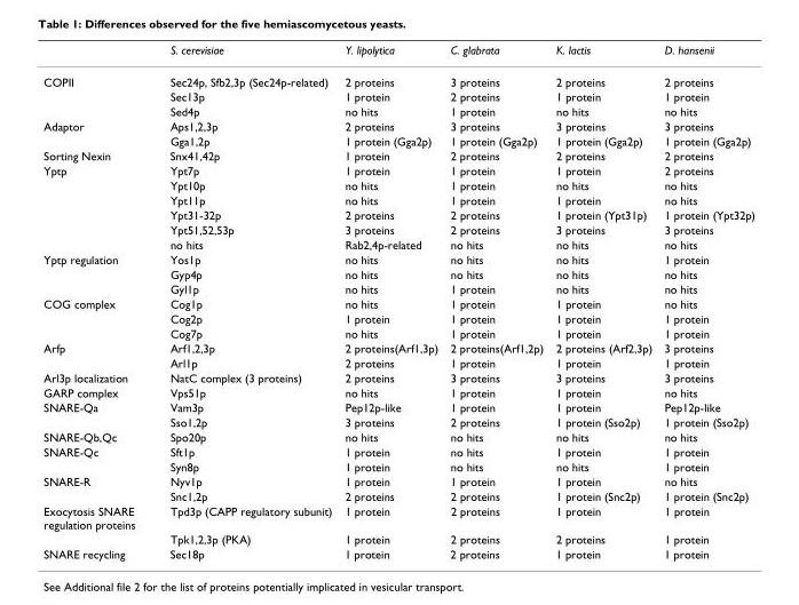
<table><thead><tr><td></td><td>S. cerevisiae</td><td>Y. lipolytica</td><td>C. glabrata</td><td>K. lactis</td><td>D. hansenii</td></tr></thead><tbody><tr><td rowspan="3">COPII</td><td>Sec24p, Sfb2,3p (Sec24p-related)</td><td>2 proteins</td><td>3 proteins</td><td>2 proteins</td><td>2 proteins</td></tr><tr><td>Sec13p</td><td>1 protein</td><td>2 proteins</td><td>1 protein</td><td>1 protein</td></tr><tr><td>Sed4p</td><td>no hits</td><td>1 protein</td><td>no hits</td><td>no hits</td></tr><tr><td rowspan="2">Adaptor</td><td>Aps1,2,3p</td><td>2 proteins</td><td>3 proteins</td><td>3 proteins</td><td>3 proteins</td></tr><tr><td>Gga1,2p</td><td>1 protein (Gga2p)</td><td>1 protein (Gga2p)</td><td>1 protein (Gga2p)</td><td>1 protein (Gga2p)</td></tr><tr><td>Sorting Nexin</td><td>Snx41,42p</td><td>1 protein</td><td>2 proteins</td><td>2 proteins</td><td>2 proteins</td></tr><tr><td rowspan="6">Yptp</td><td>Ypt7p</td><td>1 protein</td><td>1 protein</td><td>1 protein</td><td>2 proteins</td></tr><tr><td>Ypt10p</td><td>no hits</td><td>1 protein</td><td>no hits</td><td>no hits</td></tr><tr><td>Ypt11p</td><td>no hits</td><td>1 protein</td><td>1 protein</td><td>no hits</td></tr><tr><td>Ypt31-32p</td><td>2 proteins</td><td>2 proteins</td><td>1 protein (Ypt31p)</td><td>1 protein (Ypt32p)</td></tr><tr><td>Ypt51,52,53p</td><td>3 proteins</td><td>2 proteins</td><td>3 proteins</td><td>3 proteins</td></tr><tr><td>no hits</td><td>Rab2,4p-related</td><td>no hits</td><td>no hits</td><td>no hits</td></tr><tr><td rowspan="3">Yptp regulation</td><td>Yos1p</td><td>no hits</td><td>no hits</td><td>no hits</td><td>1 protein</td></tr><tr><td>Gyp4p</td><td>no hits</td><td>no hits</td><td>no hits</td><td>no hits</td></tr><tr><td>Gyl1p</td><td>no hits</td><td>1 protein</td><td>no hits</td><td>no hits</td></tr><tr><td rowspan="3">COG complex</td><td>Cog1p</td><td>no hits</td><td>1 protein</td><td>1 protein</td><td>no hits</td></tr><tr><td>Cog2p</td><td>1 protein</td><td>1 protein</td><td>1 protein</td><td>1 protein</td></tr><tr><td>Cog7p</td><td>no hits</td><td>1 protein</td><td>1 protein</td><td>1 protein</td></tr><tr><td rowspan="2">Arfp</td><td>Arf1,2,3p</td><td>2 proteins(Arf1,3p)</td><td>2 proteins(Arf1,2p)</td><td>2 proteins (Arf2,3p)</td><td>3 proteins</td></tr><tr><td>Arl1p</td><td>2 proteins</td><td>1 protein</td><td>1 protein</td><td>1 protein</td></tr><tr><td>Arl3p localization</td><td>NatC complex (3 proteins)</td><td>2 proteins</td><td>3 proteins</td><td>3 proteins</td><td>3 proteins</td></tr><tr><td>GARP complex</td><td>Vps51p</td><td>no hits</td><td>1 protein</td><td>1 protein</td><td>no hits</td></tr><tr><td rowspan="2">SNARE-Qa</td><td>Vam3p</td><td>Pep12p-like</td><td>1 protein</td><td>1 protein</td><td>Pep12p-like</td></tr><tr><td>Sso1,2p</td><td>3 proteins</td><td>2 proteins</td><td>1 protein (Sso2p)</td><td>1 protein (Sso2p)</td></tr><tr><td>SNARE-Qb,Qc</td><td>Spo20p</td><td>no hits</td><td>no hits</td><td>no hits</td><td>no hits</td></tr><tr><td rowspan="2">SNARE-Qc</td><td>Sft1p</td><td>1 protein</td><td>no hits</td><td>1 protein</td><td>1 protein</td></tr><tr><td>Syn8p</td><td>1 protein</td><td>no hits</td><td>no hits</td><td>1 protein</td></tr><tr><td rowspan="2">SNARE-R</td><td>Nyv1p</td><td>1 protein</td><td>1 protein</td><td>1 protein</td><td>no hits</td></tr><tr><td>Snc1,2p</td><td>2 proteins</td><td>2 proteins</td><td>1 protein (Snc2p)</td><td>1 protein (Snc2p)</td></tr><tr><td rowspan="2">Exocytosis SNARE regulation proteins</td><td>Tpd3p (CAPP regulatory subunit)</td><td>1 protein</td><td>2 proteins</td><td>1 protein</td><td>1 protein</td></tr><tr><td>Tpk1,2,3p (PKA)</td><td>1 protein</td><td>2 proteins</td><td>2 proteins</td><td>1 protein</td></tr><tr><td>SNARE recycling</td><td>Sec18p</td><td>1 protein</td><td>2 proteins</td><td>1 protein</td><td>1 protein</td></tr></tbody></table>